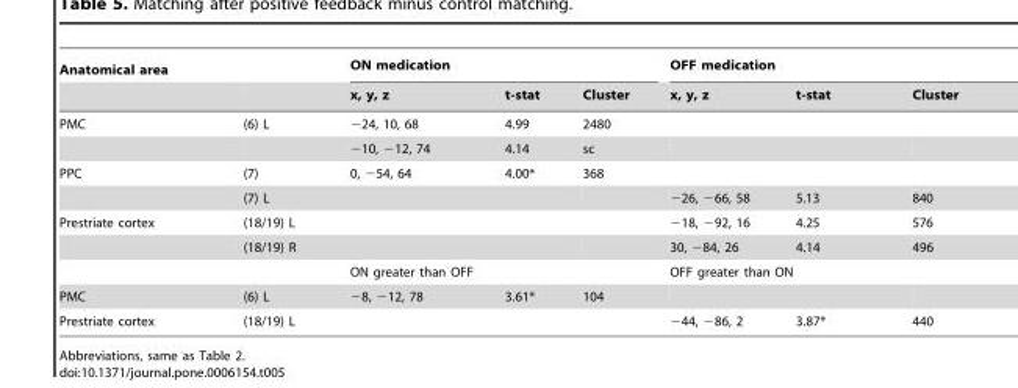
<table><thead><tr><td colspan="2">Anatomical area</td><td colspan="3">ON medication</td><td colspan="3">OFF medication</td></tr><tr><td></td><td></td><td>x, y, z</td><td>t-stat</td><td>Cluster</td><td>x, y, z</td><td>t-stat</td><td>Cluster</td></tr></thead><tbody><tr><td rowspan="2">PMC</td><td>(6) L</td><td>−24, 10, 68</td><td>4.99</td><td>2480</td><td></td><td></td><td></td></tr><tr><td></td><td>−10, −12, 74</td><td>4.14</td><td>sc</td><td></td><td></td><td></td></tr><tr><td rowspan="2">PPC</td><td>(7)</td><td>0, −54, 64</td><td>4.00*</td><td>368</td><td></td><td></td><td></td></tr><tr><td>(7) L</td><td></td><td></td><td></td><td>−26, −66, 58</td><td>5.13</td><td>840</td></tr><tr><td rowspan="3">Prestriate cortex</td><td>(18/19) L</td><td></td><td></td><td></td><td>−18, −92, 16</td><td>4.25</td><td>576</td></tr><tr><td>(18/19) R</td><td></td><td></td><td></td><td>30, −84, 26</td><td>4.14</td><td>496</td></tr><tr><td></td><td colspan="3">ON greater than OFF</td><td colspan="3">OFF greater than ON</td></tr><tr><td>PMC</td><td>(6) L</td><td>−8, −12, 78</td><td>3.61*</td><td>104</td><td></td><td></td><td></td></tr><tr><td>Prestriate cortex</td><td>(18/19) L</td><td></td><td></td><td></td><td>−44, −86, 2</td><td>3.87*</td><td>440</td></tr></tbody></table>